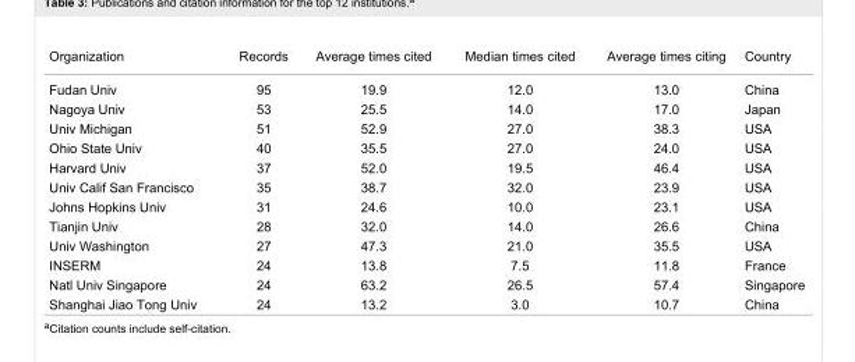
<table><tbody><tr><td>Organization</td><td>Records</td><td>Average times cited</td><td>Median times cited</td><td>Average times citing</td><td>Country</td></tr><tr><td>Fudan Univ</td><td>95</td><td>19.9</td><td>12.0</td><td>13.0</td><td>China</td></tr><tr><td>Nagoya Univ</td><td>53</td><td>25.5</td><td>14.0</td><td>17.0</td><td>Japan</td></tr><tr><td>Univ Michigan</td><td>51</td><td>52.9</td><td>27.0</td><td>38.3</td><td>USA</td></tr><tr><td>Ohio State Univ</td><td>40</td><td>35.5</td><td>27.0</td><td>24.0</td><td>USA</td></tr><tr><td>Harvard Univ</td><td>37</td><td>52.0</td><td>19.5</td><td>46.4</td><td>USA</td></tr><tr><td>Univ Calif San Francisco</td><td>35</td><td>38.7</td><td>32.0</td><td>23.9</td><td>USA</td></tr><tr><td>Johns Hopkins Univ</td><td>31</td><td>24.6</td><td>10.0</td><td>23.1</td><td>USA</td></tr><tr><td>Tianjin Univ</td><td>28</td><td>32.0</td><td>14.0</td><td>26.6</td><td>China</td></tr><tr><td>Univ Washington</td><td>27</td><td>47.3</td><td>21.0</td><td>35.5</td><td>USA</td></tr><tr><td>INSERM</td><td>24</td><td>13.8</td><td>7.5</td><td>11.8</td><td>France</td></tr><tr><td>Natl Univ Singapore</td><td>24</td><td>63.2</td><td>26.5</td><td>57.4</td><td>Singapore</td></tr><tr><td>Shanghai Jiao Tong Univ</td><td>24</td><td>13.2</td><td>3.0</td><td>10.7</td><td>China</td></tr></tbody></table>